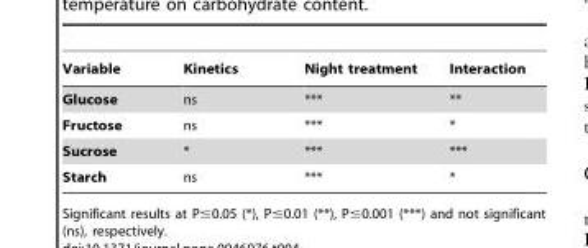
<table><thead><tr><td>Variable</td><td>Kinetics</td><td>Night treatment</td><td>Interaction</td></tr></thead><tbody><tr><td>Glucose</td><td>ns</td><td>***</td><td>**</td></tr><tr><td>Fructose</td><td>ns</td><td>***</td><td>*</td></tr><tr><td>Sucrose</td><td>*</td><td>***</td><td>***</td></tr><tr><td>Starch</td><td>ns</td><td>***</td><td>*</td></tr></tbody></table>